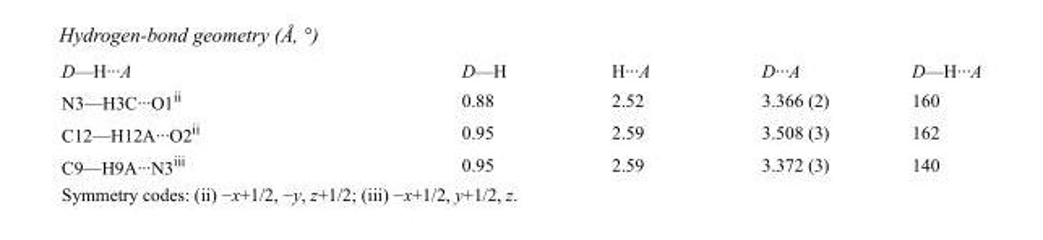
<table><tbody><tr><td>D—H···A</td><td>D—H</td><td>H···A</td><td>D···A</td><td>D—H···A</td></tr><tr><td>N3—H3C···O1<sup>ii</sup></td><td>0.88</td><td>2.52</td><td>3.366 (2)</td><td>160</td></tr><tr><td>C12—H12A···O2<sup>ii</sup></td><td>0.95</td><td>2.59</td><td>3.508 (3)</td><td>162</td></tr><tr><td>C9—H9A···N3<sup>iii</sup></td><td>0.95</td><td>2.59</td><td>3.372 (3)</td><td>140</td></tr></tbody></table>